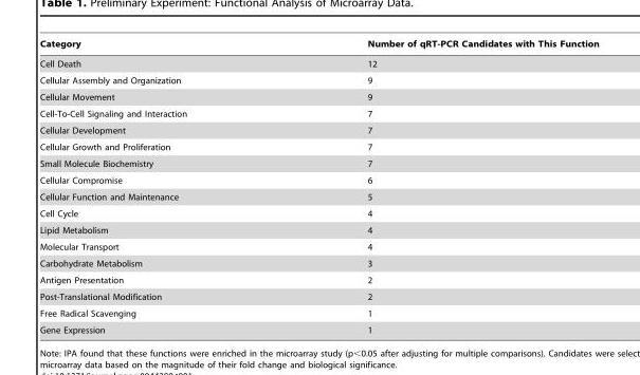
<table><thead><tr><td>Category</td><td>Number of qRT-PCR Candidates with This Function</td></tr></thead><tbody><tr><td>Cell Death</td><td>12</td></tr><tr><td>Cellular Assembly and Organization</td><td>9</td></tr><tr><td>Cellular Movement</td><td>9</td></tr><tr><td>Cell-To-Cell Signaling and Interaction</td><td>7</td></tr><tr><td>Cellular Development</td><td>7</td></tr><tr><td>Cellular Growth and Proliferation</td><td>7</td></tr><tr><td>Small Molecule Biochemistry</td><td>7</td></tr><tr><td>Cellular Compromise</td><td>6</td></tr><tr><td>Cellular Function and Maintenance</td><td>5</td></tr><tr><td>Cell Cycle</td><td>4</td></tr><tr><td>Lipid Metabolism</td><td>4</td></tr><tr><td>Molecular Transport</td><td>4</td></tr><tr><td>Carbohydrate Metabolism</td><td>3</td></tr><tr><td>Antigen Presentation</td><td>2</td></tr><tr><td>Post-Translational Modification</td><td>2</td></tr><tr><td>Free Radical Scavenging</td><td>1</td></tr><tr><td>Gene Expression</td><td>1</td></tr></tbody></table>